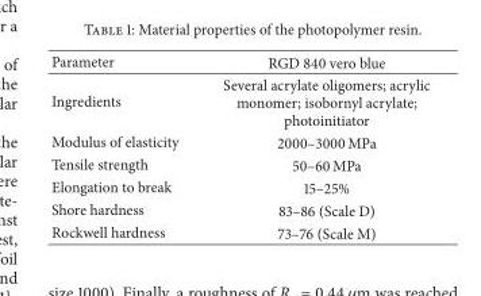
<table><thead><tr><td>Parameter</td><td>RGD 840 vero blue</td></tr></thead><tbody><tr><td>Ingredients</td><td>Several acrylate oligomers; acrylic monomer; isobornyl acrylate; photoinitiator</td></tr><tr><td>Modulus of elasticity</td><td>2000–3000 MPa</td></tr><tr><td>Tensile strength</td><td>50–60 MPa</td></tr><tr><td>Elongation to break</td><td>15–25%</td></tr><tr><td>Shore hardness</td><td>83–86 (Scale D)</td></tr><tr><td>Rockwell hardness</td><td>73–76 (Scale M)</td></tr></tbody></table>